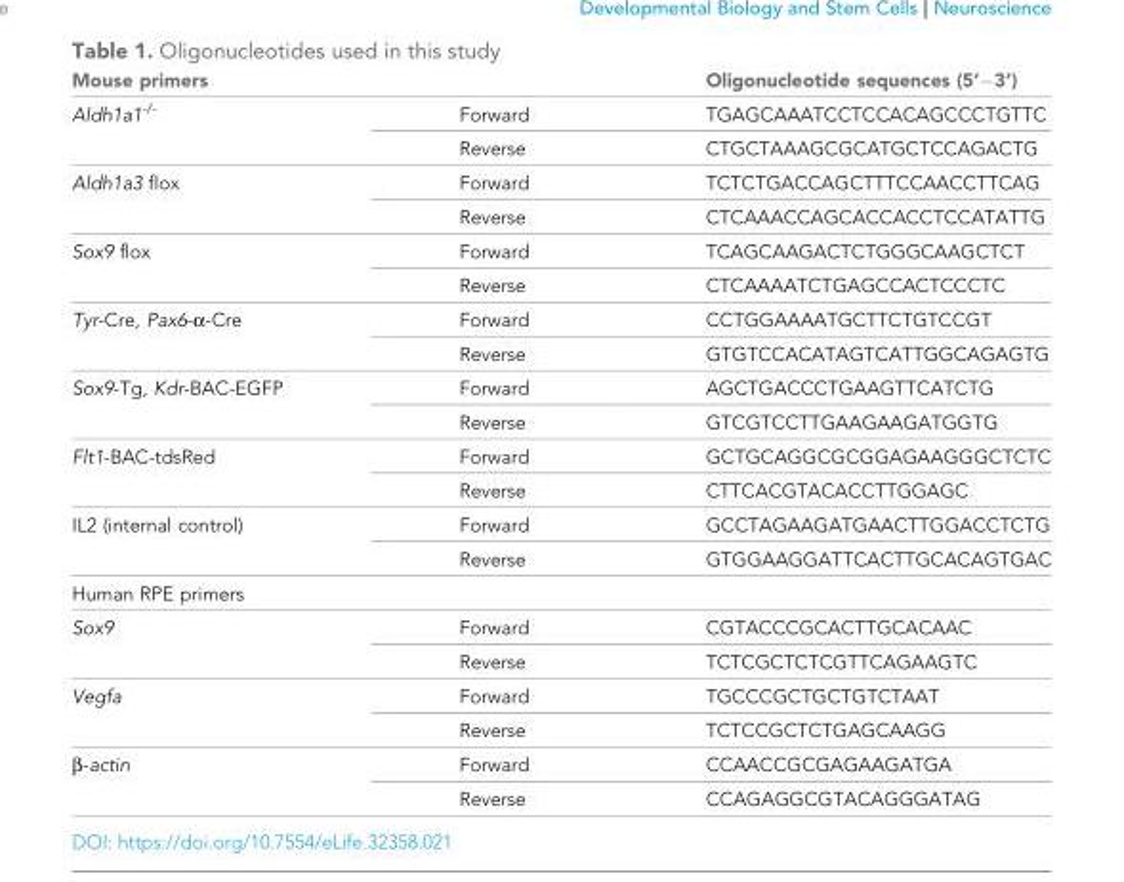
<table><thead><tr><td>Mouse primers</td><td></td><td>Oligonucleotide sequences (5’−3’)</td></tr></thead><tbody><tr><td rowspan="2">Aldh1a1<sup>-/-</sup></td><td>Forward</td><td>TGAGCAAATCCTCCACAGCCCTGTTC</td></tr><tr><td>Reverse</td><td>CTGCTAAAGCGCATGCTCCAGACTG</td></tr><tr><td rowspan="2">Aldh1a3 flox</td><td>Forward</td><td>TCTCTGACCAGCTTTCCAACCTTCAG</td></tr><tr><td>Reverse</td><td>CTCAAACCAGCACCACCTCCATATTG</td></tr><tr><td rowspan="2">Sox9 flox</td><td>Forward</td><td>TCAGCAAGACTCTGGGCAAGCTCT</td></tr><tr><td>Reverse</td><td>CTCAAAATCTGAGCCACTCCCTC</td></tr><tr><td rowspan="2">Tyr-Cre, Pax6-α-Cre</td><td>Forward</td><td>CCTGGAAAATGCTTCTGTCCGT</td></tr><tr><td>Reverse</td><td>GTGTCCACATAGTCATTGGCAGAGTG</td></tr><tr><td rowspan="2">Sox9-Tg, Kdr-BAC-EGFP</td><td>Forward</td><td>AGCTGACCCTGAAGTTCATCTG</td></tr><tr><td>Reverse</td><td>GTCGTCCTTGAAGAAGATGGTG</td></tr><tr><td rowspan="2">Flt1-BAC-tdsRed</td><td>Forward</td><td>GCTGCAGGCGCGGAGAAGGGCTCTC</td></tr><tr><td>Reverse</td><td>CTTCACGTACACCTTGGAGC</td></tr><tr><td rowspan="2">IL2 (internal control)</td><td>Forward</td><td>GCCTAGAAGATGAACTTGGACCTCTG</td></tr><tr><td>Reverse</td><td>GTGGAAGGATTCACTTGCACAGTGAC</td></tr><tr><td colspan="3">Human RPE primers</td></tr><tr><td rowspan="2">Sox9</td><td>Forward</td><td>CGTACCCGCACTTGCACAAC</td></tr><tr><td>Reverse</td><td>TCTCGCTCTCGTTCAGAAGTC</td></tr><tr><td rowspan="2">Vegfa</td><td>Forward</td><td>TGCCCGCTGCTGTCTAAT</td></tr><tr><td>Reverse</td><td>TCTCCGCTCTGAGCAAGG</td></tr><tr><td rowspan="2">β-actin</td><td>Forward</td><td>CCAACCGCGAGAAGATGA</td></tr><tr><td>Reverse</td><td>CCAGAGGCGTACAGGGATAG</td></tr></tbody></table>